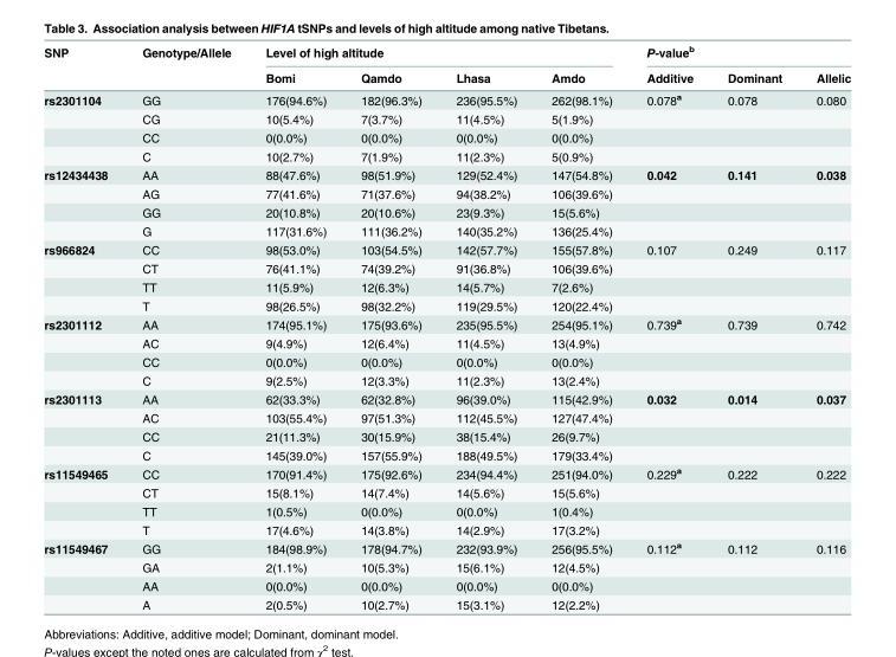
<table><thead><tr><td rowspan="2">SNP</td><td rowspan="2">Genotype/Allele</td><td colspan="4">Level of high altitude</td><td colspan="3">P-value<sup>b</sup></td></tr><tr><td>Bomi</td><td>Qamdo</td><td>Lhasa</td><td>Amdo</td><td>Additive</td><td>Dominant</td><td>Allelic</td></tr></thead><tbody><tr><td rowspan="4">rs2301104</td><td>GG</td><td>176(94.6%)</td><td>182(96.3%)</td><td>236(95.5%)</td><td>262(98.1%)</td><td>0.078<sup>a</sup></td><td>0.078</td><td>0.080</td></tr><tr><td>CG</td><td>10(5.4%)</td><td>7(3.7%)</td><td>11(4.5%)</td><td>5(1.9%)</td><td></td><td></td><td></td></tr><tr><td>CC</td><td>0(0.0%)</td><td>0(0.0%)</td><td>0(0.0%)</td><td>0(0.0%)</td><td></td><td></td><td></td></tr><tr><td>C</td><td>10(2.7%)</td><td>7(1.9%)</td><td>11(2.3%)</td><td>5(0.9%)</td><td></td><td></td><td></td></tr><tr><td rowspan="4">rs12434438</td><td>AA</td><td>88(47.6%)</td><td>98(51.9%)</td><td>129(52.4%)</td><td>147(54.8%)</td><td>0.042</td><td>0.141</td><td>0.038</td></tr><tr><td>AG</td><td>77(41.6%)</td><td>71(37.6%)</td><td>94(38.2%)</td><td>106(39.6%)</td><td></td><td></td><td></td></tr><tr><td>GG</td><td>20(10.8%)</td><td>20(10.6%)</td><td>23(9.3%)</td><td>15(5.6%)</td><td></td><td></td><td></td></tr><tr><td>G</td><td>117(31.6%)</td><td>111(36.2%)</td><td>140(35.2%)</td><td>136(25.4%)</td><td></td><td></td><td></td></tr><tr><td rowspan="4">rs966824</td><td>CC</td><td>98(53.0%)</td><td>103(54.5%)</td><td>142(57.7%)</td><td>155(57.8%)</td><td>0.107</td><td>0.249</td><td>0.117</td></tr><tr><td>CT</td><td>76(41.1%)</td><td>74(39.2%)</td><td>91(36.8%)</td><td>106(39.6%)</td><td></td><td></td><td></td></tr><tr><td>TT</td><td>11(5.9%)</td><td>12(6.3%)</td><td>14(5.7%)</td><td>7(2.6%)</td><td></td><td></td><td></td></tr><tr><td>T</td><td>98(26.5%)</td><td>98(32.2%)</td><td>119(29.5%)</td><td>120(22.4%)</td><td></td><td></td><td></td></tr><tr><td rowspan="4">rs2301112</td><td>AA</td><td>174(95.1%)</td><td>175(93.6%)</td><td>235(95.5%)</td><td>254(95.1%)</td><td>0.739<sup>a</sup></td><td>0.739</td><td>0.742</td></tr><tr><td>AC</td><td>9(4.9%)</td><td>12(6.4%)</td><td>11(4.5%)</td><td>13(4.9%)</td><td></td><td></td><td></td></tr><tr><td>CC</td><td>0(0.0%)</td><td>0(0.0%)</td><td>0(0.0%)</td><td>0(0.0%)</td><td></td><td></td><td></td></tr><tr><td>C</td><td>9(2.5%)</td><td>12(3.3%)</td><td>11(2.3%)</td><td>13(2.4%)</td><td></td><td></td><td></td></tr><tr><td rowspan="4">rs2301113</td><td>AA</td><td>62(33.3%)</td><td>62(32.8%)</td><td>96(39.0%)</td><td>115(42.9%)</td><td>0.032</td><td>0.014</td><td>0.037</td></tr><tr><td>AC</td><td>103(55.4%)</td><td>97(51.3%)</td><td>112(45.5%)</td><td>127(47.4%)</td><td></td><td></td><td></td></tr><tr><td>CC</td><td>21(11.3%)</td><td>30(15.9%)</td><td>38(15.4%)</td><td>26(9.7%)</td><td></td><td></td><td></td></tr><tr><td>C</td><td>145(39.0%)</td><td>157(55.9%)</td><td>188(49.5%)</td><td>179(33.4%)</td><td></td><td></td><td></td></tr><tr><td rowspan="4">rs11549465</td><td>CC</td><td>170(91.4%)</td><td>175(92.6%)</td><td>234(94.4%)</td><td>251(94.0%)</td><td>0.229<sup>a</sup></td><td>0.222</td><td>0.222</td></tr><tr><td>CT</td><td>15(8.1%)</td><td>14(7.4%)</td><td>14(5.6%)</td><td>15(5.6%)</td><td></td><td></td><td></td></tr><tr><td>TT</td><td>1(0.5%)</td><td>0(0.0%)</td><td>0(0.0%)</td><td>1(0.4%)</td><td></td><td></td><td></td></tr><tr><td>T</td><td>17(4.6%)</td><td>14(3.8%)</td><td>14(2.9%)</td><td>17(3.2%)</td><td></td><td></td><td></td></tr><tr><td rowspan="4">rs11549467</td><td>GG</td><td>184(98.9%)</td><td>178(94.7%)</td><td>232(93.9%)</td><td>256(95.5%)</td><td>0.112<sup>a</sup></td><td>0.112</td><td>0.116</td></tr><tr><td>GA</td><td>2(1.1%)</td><td>10(5.3%)</td><td>15(6.1%)</td><td>12(4.5%)</td><td></td><td></td><td></td></tr><tr><td>AA</td><td>0(0.0%)</td><td>0(0.0%)</td><td>0(0.0%)</td><td>0(0.0%)</td><td></td><td></td><td></td></tr><tr><td>A</td><td>2(0.5%)</td><td>10(2.7%)</td><td>15(3.1%)</td><td>12(2.2%)</td><td></td><td></td><td></td></tr></tbody></table>